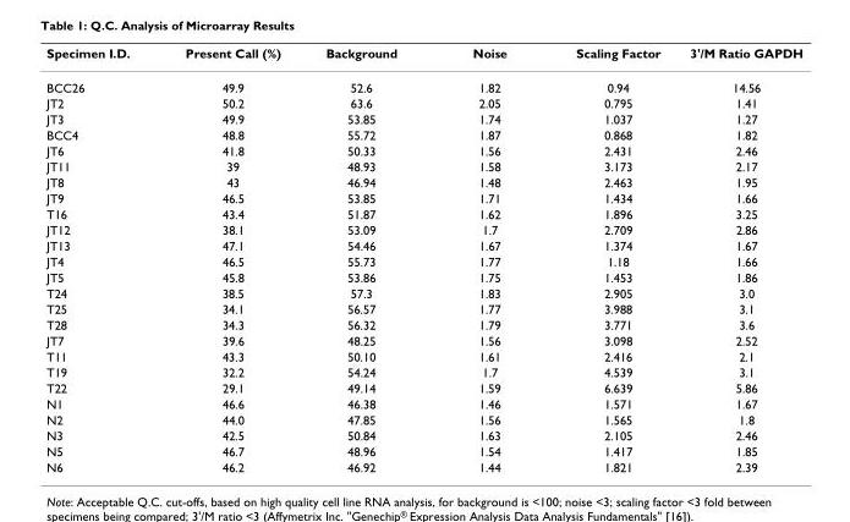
<table><thead><tr><td>Specimen I.D.</td><td>Present Call (%)</td><td>Background</td><td>Noise</td><td>Scaling Factor</td><td>3&#x27;/M Ratio GAPDH</td></tr></thead><tbody><tr><td>BCC26</td><td>49.9</td><td>52.6</td><td>1.82</td><td>0.94</td><td>14.56</td></tr><tr><td>JT2</td><td>50.2</td><td>63.6</td><td>2.05</td><td>0.795</td><td>1.41</td></tr><tr><td>JT3</td><td>49.9</td><td>53.85</td><td>1.74</td><td>1.037</td><td>1.27</td></tr><tr><td>BCC4</td><td>48.8</td><td>55.72</td><td>1.87</td><td>0.868</td><td>1.82</td></tr><tr><td>JT6</td><td>41.8</td><td>50.33</td><td>1.56</td><td>2.431</td><td>2.46</td></tr><tr><td>JT11</td><td>39</td><td>48.93</td><td>1.58</td><td>3.173</td><td>2.17</td></tr><tr><td>JT8</td><td>43</td><td>46.94</td><td>1.48</td><td>2.463</td><td>1.95</td></tr><tr><td>JT9</td><td>46.5</td><td>53.85</td><td>1.71</td><td>1.434</td><td>1.66</td></tr><tr><td>T16</td><td>43.4</td><td>51.87</td><td>1.62</td><td>1.896</td><td>3.25</td></tr><tr><td>JT12</td><td>38.1</td><td>53.09</td><td>1.7</td><td>2.709</td><td>2.86</td></tr><tr><td>JT13</td><td>47.1</td><td>54.46</td><td>1.67</td><td>1.374</td><td>1.67</td></tr><tr><td>JT4</td><td>46.5</td><td>55.73</td><td>1.77</td><td>1.18</td><td>1.66</td></tr><tr><td>JT5</td><td>45.8</td><td>53.86</td><td>1.75</td><td>1.453</td><td>1.86</td></tr><tr><td>T24</td><td>38.5</td><td>57.3</td><td>1.83</td><td>2.905</td><td>3.0</td></tr><tr><td>T25</td><td>34.1</td><td>56.57</td><td>1.77</td><td>3.988</td><td>3.1</td></tr><tr><td>T28</td><td>34.3</td><td>56.32</td><td>1.79</td><td>3.771</td><td>3.6</td></tr><tr><td>JT7</td><td>39.6</td><td>48.25</td><td>1.56</td><td>3.098</td><td>2.52</td></tr><tr><td>T11</td><td>43.3</td><td>50.10</td><td>1.61</td><td>2.416</td><td>2.1</td></tr><tr><td>T19</td><td>32.2</td><td>54.24</td><td>1.7</td><td>4.539</td><td>3.1</td></tr><tr><td>T22</td><td>29.1</td><td>49.14</td><td>1.59</td><td>6.639</td><td>5.86</td></tr><tr><td>N1</td><td>46.6</td><td>46.38</td><td>1.46</td><td>1.571</td><td>1.67</td></tr><tr><td>N2</td><td>44.0</td><td>47.85</td><td>1.56</td><td>1.565</td><td>1.8</td></tr><tr><td>N3</td><td>42.5</td><td>50.84</td><td>1.63</td><td>2.105</td><td>2.46</td></tr><tr><td>N5</td><td>46.7</td><td>48.96</td><td>1.54</td><td>1.417</td><td>1.85</td></tr><tr><td>N6</td><td>46.2</td><td>46.92</td><td>1.44</td><td>1.821</td><td>2.39</td></tr></tbody></table>